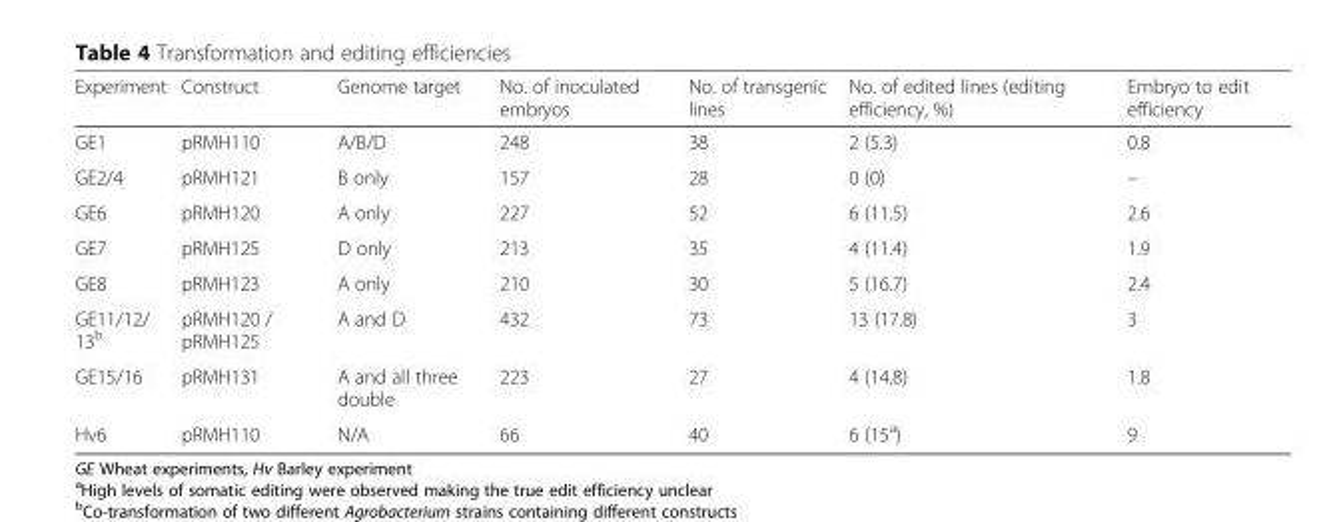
<table><thead><tr><td>Experiment</td><td>Construct</td><td>Genome target</td><td>No. of inoculated embryos</td><td>No. of transgenic lines</td><td>No. of edited lines (editing efficiency, %)</td><td>Embryo to edit efficiency</td></tr></thead><tbody><tr><td>GE1</td><td>pRMH110</td><td>A/B/D</td><td>248</td><td>38</td><td>2 (5.3)</td><td>0.8</td></tr><tr><td>GE2/4</td><td>pRMH121</td><td>B only</td><td>157</td><td>28</td><td>0 (0)</td><td>–</td></tr><tr><td>GE6</td><td>pRMH120</td><td>A only</td><td>227</td><td>52</td><td>6 (11.5)</td><td>2.6</td></tr><tr><td>GE7</td><td>pRMH125</td><td>D only</td><td>213</td><td>35</td><td>4 (11.4)</td><td>1.9</td></tr><tr><td>GE8</td><td>pRMH123</td><td>A only</td><td>210</td><td>30</td><td>5 (16.7)</td><td>2.4</td></tr><tr><td>GE11/12/ 13<sup>b</sup></td><td>pRMH120 / pRMH125</td><td>A and D</td><td>432</td><td>73</td><td>13 (17.8)</td><td>3</td></tr><tr><td>GE15/16</td><td>pRMH131</td><td>A and all three double</td><td>223</td><td>27</td><td>4 (14.8)</td><td>1.8</td></tr><tr><td>Hv6</td><td>pRMH110</td><td>N/A</td><td>66</td><td>40</td><td>6 (15<sup>a</sup>)</td><td>9</td></tr></tbody></table>